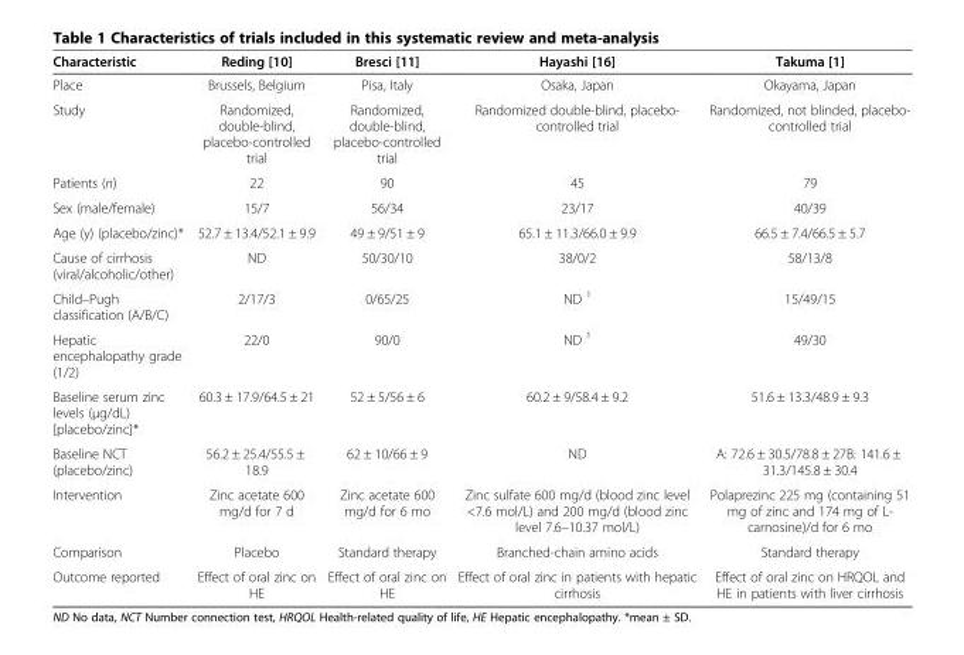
<table><thead><tr><td>Characteristic</td><td>Reding [10]</td><td>Bresci [11]</td><td>Hayashi [16]</td><td>Takuma [1]</td></tr></thead><tbody><tr><td>Place</td><td>Brussels, Belgium</td><td>Pisa, Italy</td><td>Osaka, Japan</td><td>Okayama, Japan</td></tr><tr><td>Study</td><td>Randomized, double-blind, placebo-controlled trial</td><td>Randomized, double-blind, placebo-controlled trial</td><td>Randomized double-blind, placebo- controlled trial</td><td>Randomized, not blinded, placebo- controlled trial</td></tr><tr><td>Patients (n)</td><td>22</td><td>90</td><td>45</td><td>79</td></tr><tr><td>Sex (male/female)</td><td>15/7</td><td>56/34</td><td>23/17</td><td>40/39</td></tr><tr><td>Age (y) (placebo/zinc)*</td><td>52.7 ± 13.4/52.1 ± 9.9</td><td>49 ± 9/51 ± 9</td><td>65.1 ± 11.3/66.0 ± 9.9</td><td>66.5 ± 7.4/66.5 ± 5.7</td></tr><tr><td>Cause of cirrhosis (viral/alcoholic/other)</td><td>ND</td><td>50/30/10</td><td>38/0/2</td><td>58/13/8</td></tr><tr><td>Child–Pugh classification (A/B/C)</td><td>2/17/3</td><td>0/65/25</td><td>ND <sup>1</sup></td><td>15/49/15</td></tr><tr><td>Hepatic encephalopathy grade (1/2)</td><td>22/0</td><td>90/0</td><td>ND <sup>1</sup></td><td>49/30</td></tr><tr><td>Baseline serum zinc levels (μg/dL) [placebo/zinc]*</td><td>60.3 ± 17.9/64.5 ± 21</td><td>52 ± 5/56 ± 6</td><td>60.2 ± 9/58.4 ± 9.2</td><td>51.6 ± 13.3/48.9 ± 9.3</td></tr><tr><td>Baseline NCT (placebo/zinc)</td><td>56.2 ± 25.4/55.5 ± 18.9</td><td>62 ± 10/66 ± 9</td><td>ND</td><td>A: 72.6 ± 30.5/78.8 ± 27B: 141.6 ± 31.3/145.8 ± 30.4</td></tr><tr><td>Intervention</td><td>Zinc acetate 600 mg/d for 7 d</td><td>Zinc acetate 600 mg/d for 6 mo</td><td>Zinc sulfate 600 mg/d (blood zinc level &lt;7.6 mol/L) and 200 mg/d (blood zinc level 7.6–10.37 mol/L)</td><td>Polaprezinc 225 mg (containing 51 mg of zinc and 174 mg of L- carnosine)/d for 6 mo</td></tr><tr><td>Comparison</td><td>Placebo</td><td>Standard therapy</td><td>Branched-chain amino acids</td><td>Standard therapy</td></tr><tr><td>Outcome reported</td><td>Effect of oral zinc on HE</td><td>Effect of oral zinc on HE</td><td>Effect of oral zinc in patients with hepatic cirrhosis</td><td>Effect of oral zinc on HRQOL and HE in patients with liver cirrhosis</td></tr></tbody></table>